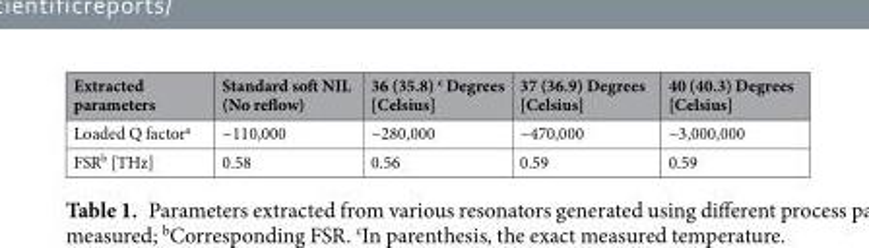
<table><thead><tr><td>Extracted parameters</td><td>Standard soft NIL (No reflow)</td><td>36 (35.8) <sup>c</sup> Degrees [Celsius]</td><td>37 (36.9) Degrees [Celsius]</td><td>40 (40.3) Degrees [Celsius]</td></tr></thead><tbody><tr><td>Loaded Q factor<sup>a</sup></td><td>~110,000</td><td>~280,000</td><td>~470,000</td><td>~3,000,000</td></tr><tr><td>FSR<sup>b</sup> [THz]</td><td>0.58</td><td>0.56</td><td>0.59</td><td>0.59</td></tr></tbody></table>